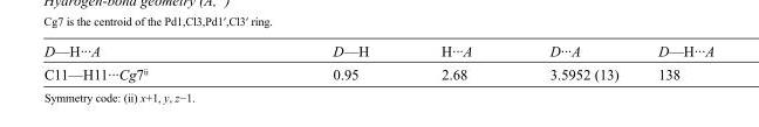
<table><tbody><tr><td>D—H···A</td><td>D—H</td><td>H···A</td><td>D···A</td><td>D—H···A</td></tr><tr><td>C11—H11···Cg7<sup>ii</sup></td><td>0.95</td><td>2.68</td><td>3.5952 (13)</td><td>138</td></tr></tbody></table>